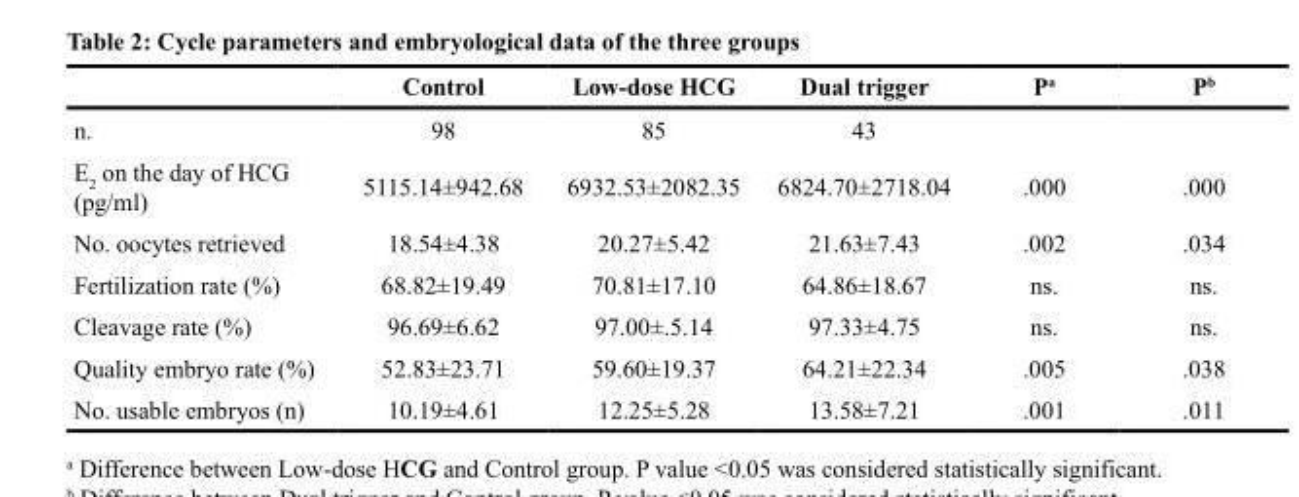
<table><thead><tr><td></td><td>Control</td><td>Low-dose HCG</td><td>Dual trigger</td><td>P<sup>a</sup></td><td>P<sup>b</sup></td></tr></thead><tbody><tr><td>n.</td><td>98</td><td>85</td><td>43</td><td></td><td></td></tr><tr><td>E<sub>2</sub> on the day of HCG (pg/ml)</td><td>5115.14±942.68</td><td>6932.53±2082.35</td><td>6824.70±2718.04</td><td>.000</td><td>.000</td></tr><tr><td>No. oocytes retrieved</td><td>18.54±4.38</td><td>20.27±5.42</td><td>21.63±7.43</td><td>.002</td><td>.034</td></tr><tr><td>Fertilization rate (%)</td><td>68.82±19.49</td><td>70.81±17.10</td><td>64.86±18.67</td><td>ns.</td><td>ns.</td></tr><tr><td>Cleavage rate (%)</td><td>96.69±6.62</td><td>97.00±.5.14</td><td>97.33±4.75</td><td>ns.</td><td>ns.</td></tr><tr><td>Quality embryo rate (%)</td><td>52.83±23.71</td><td>59.60±19.37</td><td>64.21±22.34</td><td>.005</td><td>.038</td></tr><tr><td>No. usable embryos (n)</td><td>10.19±4.61</td><td>12.25±5.28</td><td>13.58±7.21</td><td>.001</td><td>.011</td></tr></tbody></table>